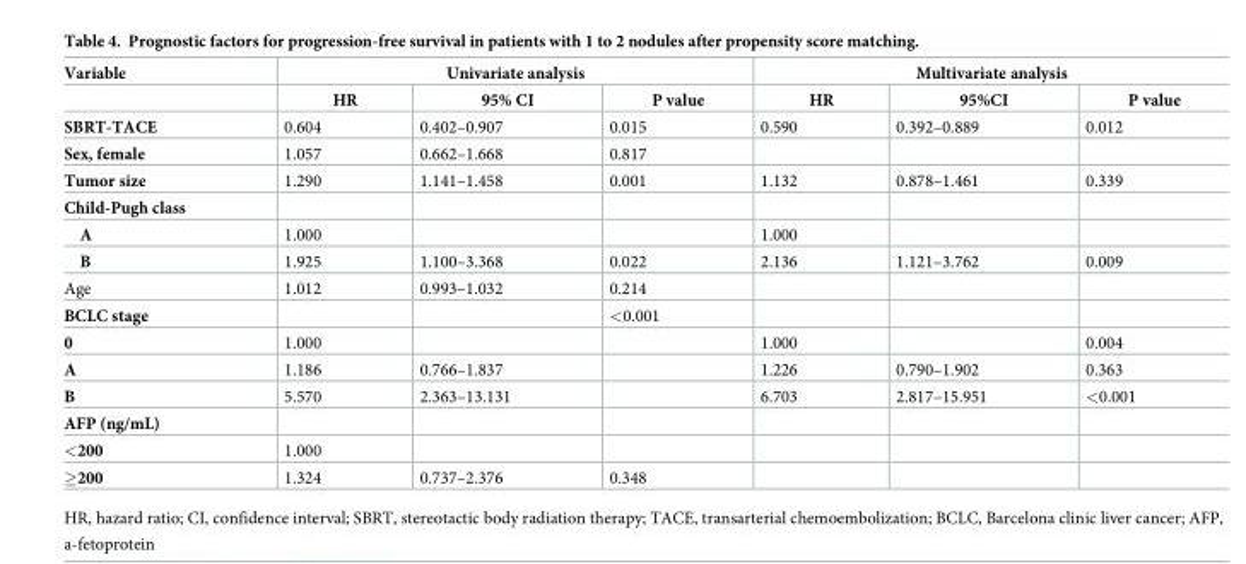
<table><thead><tr><td rowspan="2">Variable</td><td colspan="3">Univariate analysis</td><td colspan="3">Multivariate analysis</td></tr><tr><td>HR</td><td>95% CI</td><td>P value</td><td>HR</td><td>95%CI</td><td>P value</td></tr></thead><tbody><tr><td>SBRT-TACE</td><td>0.604</td><td>0.402–0.907</td><td>0.015</td><td>0.590</td><td>0.392–0.889</td><td>0.012</td></tr><tr><td>Sex, female</td><td>1.057</td><td>0.662–1.668</td><td>0.817</td><td></td><td></td><td></td></tr><tr><td>Tumor size</td><td>1.290</td><td>1.141–1.458</td><td>0.001</td><td>1.132</td><td>0.878–1.461</td><td>0.339</td></tr><tr><td colspan="7">Child-Pugh class</td></tr><tr><td>A</td><td>1.000</td><td></td><td></td><td>1.000</td><td></td><td></td></tr><tr><td>B</td><td>1.925</td><td>1.100–3.368</td><td>0.022</td><td>2.136</td><td>1.121–3.762</td><td>0.009</td></tr><tr><td>Age</td><td>1.012</td><td>0.993–1.032</td><td>0.214</td><td></td><td></td><td></td></tr><tr><td>BCLC stage</td><td></td><td></td><td>&lt;0.001</td><td></td><td></td><td></td></tr><tr><td>0</td><td>1.000</td><td></td><td></td><td>1.000</td><td></td><td>0.004</td></tr><tr><td>A</td><td>1.186</td><td>0.766–1.837</td><td></td><td>1.226</td><td>0.790–1.902</td><td>0.363</td></tr><tr><td>B</td><td>5.570</td><td>2.363–13.131</td><td></td><td>6.703</td><td>2.817–15.951</td><td>&lt;0.001</td></tr><tr><td colspan="7">AFP (ng/mL)</td></tr><tr><td>&lt;200</td><td>1.000</td><td></td><td></td><td></td><td></td><td></td></tr><tr><td>≥200</td><td>1.324</td><td>0.737–2.376</td><td>0.348</td><td></td><td></td><td></td></tr></tbody></table>